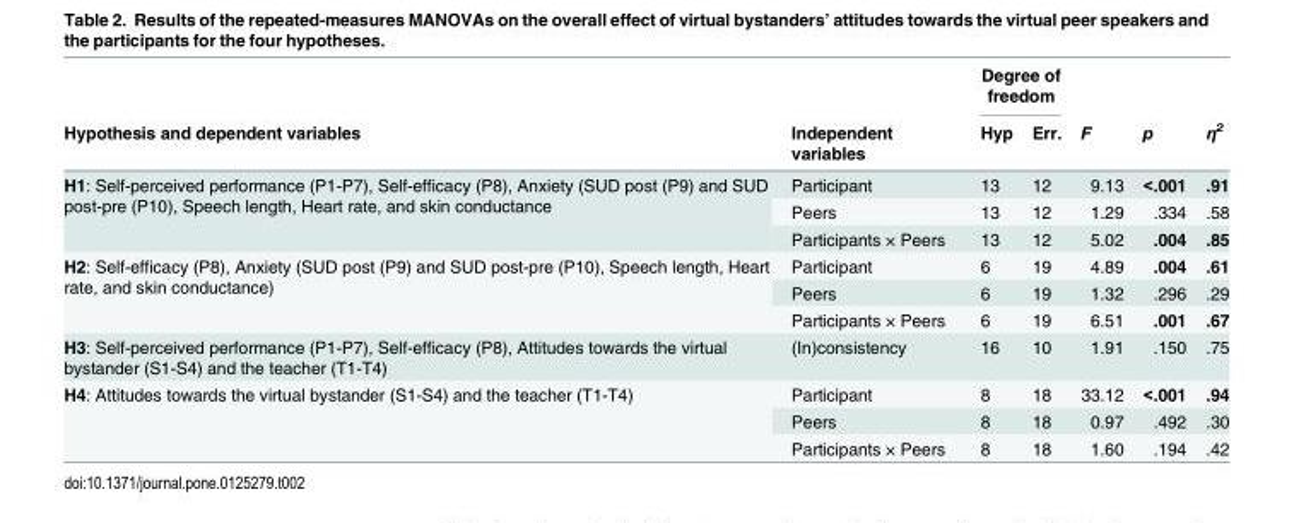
<table><thead><tr><td rowspan="2">Hypothesis and dependent variables</td><td rowspan="2">Independent variables</td><td colspan="2">Degree of freedom</td><td rowspan="2">F</td><td rowspan="2">p</td><td rowspan="2">η<sup>2</sup></td></tr><tr><td>Hyp</td><td>Err.</td></tr></thead><tbody><tr><td rowspan="3">H1: Self-perceived performance (P1-P7), Self-efficacy (P8), Anxiety (SUD post (P9) and SUD post-pre (P10), Speech length, Heart rate, and skin conductance</td><td>Participant</td><td>13</td><td>12</td><td>9.13</td><td>&lt;.001</td><td>.91</td></tr><tr><td>Peers</td><td>13</td><td>12</td><td>1.29</td><td>.334</td><td>.58</td></tr><tr><td>Participants × Peers</td><td>13</td><td>12</td><td>5.02</td><td>.004</td><td>.85</td></tr><tr><td rowspan="3">H2: Self-efficacy (P8), Anxiety (SUD post (P9) and SUD post-pre (P10), Speech length, Heart rate, and skin conductance)</td><td>Participant</td><td>6</td><td>19</td><td>4.89</td><td>.004</td><td>.61</td></tr><tr><td>Peers</td><td>6</td><td>19</td><td>1.32</td><td>.296</td><td>.29</td></tr><tr><td>Participants × Peers</td><td>6</td><td>19</td><td>6.51</td><td>.001</td><td>.67</td></tr><tr><td>H3: Self-perceived performance (P1-P7), Self-efficacy (P8), Attitudes towards the virtual bystander (S1-S4) and the teacher (T1-T4)</td><td>(In)consistency</td><td>16</td><td>10</td><td>1.91</td><td>.150</td><td>.75</td></tr><tr><td rowspan="3">H4: Attitudes towards the virtual bystander (S1-S4) and the teacher (T1-T4)</td><td>Participant</td><td>8</td><td>18</td><td>33.12</td><td>&lt;.001</td><td>.94</td></tr><tr><td>Peers</td><td>8</td><td>18</td><td>0.97</td><td>.492</td><td>.30</td></tr><tr><td>Participants × Peers</td><td>8</td><td>18</td><td>1.60</td><td>.194</td><td>.42</td></tr></tbody></table>